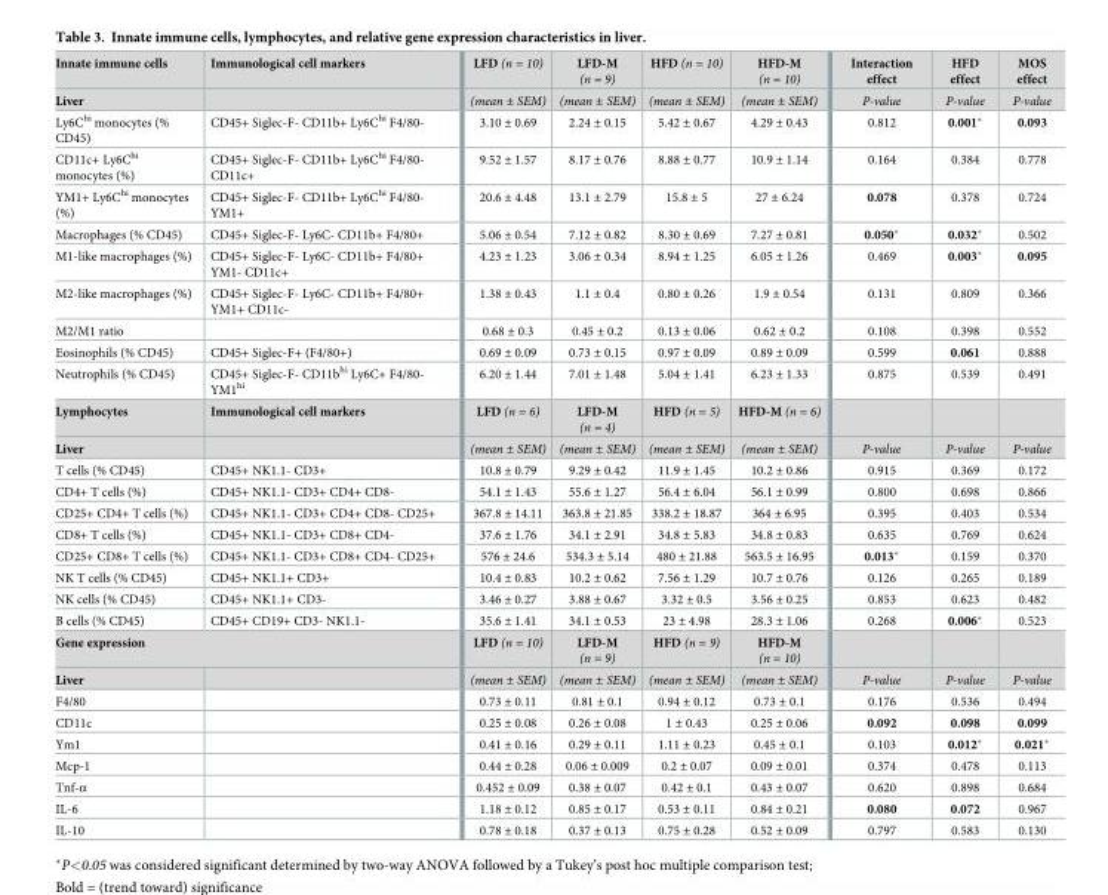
<table><tbody><tr><td>Innate immune cells</td><td>Immunological cell markers</td><td>LFD (n = 10)</td><td>LFD-M (n = 9)</td><td>HFD (n = 10)</td><td>HFD-M (n = 10)</td><td>Interaction effect</td><td>HFD effect</td><td>MOS effect</td></tr><tr><td>Liver</td><td></td><td>(mean ± SEM)</td><td>(mean ± SEM)</td><td>(mean ± SEM)</td><td>(mean ± SEM)</td><td>P-value</td><td>P-value</td><td>P-value</td></tr><tr><td>Ly6C<sup>hi</sup> monocytes (% CD45)</td><td>CD45+ Siglec-F- CD11b+ Ly6C<sup>hi</sup> F4/80-</td><td>3.10 ± 0.69</td><td>2.24 ± 0.15</td><td>5.42 ± 0.67</td><td>4.29 ± 0.43</td><td>0.812</td><td>0.001*</td><td>0.093</td></tr><tr><td>CD11c+ Ly6C<sup>hi</sup> monocytes (%)</td><td>CD45+ Siglec-F- CD11b+ Ly6C<sup>hi</sup> F4/80- CD11c+</td><td>9.52 ± 1.57</td><td>8.17 ± 0.76</td><td>8.88 ± 0.77</td><td>10.9 ± 1.14</td><td>0.164</td><td>0.384</td><td>0.778</td></tr><tr><td>YM1+ Ly6C<sup>hi</sup> monocytes (%)</td><td>CD45+ Siglec-F- CD11b+ Ly6C<sup>hi</sup> F4/80- YM1+</td><td>20.6 ± 4.48</td><td>13.1 ± 2.79</td><td>15.8 ± 5</td><td>27 ± 6.24</td><td>0.078</td><td>0.378</td><td>0.724</td></tr><tr><td>Macrophages (% CD45)</td><td>CD45+ Siglec-F- Ly6C- CD11b+ F4/80+</td><td>5.06 ± 0.54</td><td>7.12 ± 0.82</td><td>8.30 ± 0.69</td><td>7.27 ± 0.81</td><td>0.050*</td><td>0.032*</td><td>0.502</td></tr><tr><td>M1-like macrophages (%)</td><td>CD45+ Siglec-F- Ly6C- CD11b+ F4/80+ YM1- CD11c+</td><td>4.23 ± 1.23</td><td>3.06 ± 0.34</td><td>8.94 ± 1.25</td><td>6.05 ± 1.26</td><td>0.469</td><td>0.003*</td><td>0.095</td></tr><tr><td>M2-like macrophages (%)</td><td>CD45+ Siglec-F- Ly6C- CD11b+ F4/80+ YM1+ CD11c-</td><td>1.38 ± 0.43</td><td>1.1 ± 0.4</td><td>0.80 ± 0.26</td><td>1.9 ± 0.54</td><td>0.131</td><td>0.809</td><td>0.366</td></tr><tr><td>M2/M1 ratio</td><td></td><td>0.68 ± 0.3</td><td>0.45 ± 0.2</td><td>0.13 ± 0.06</td><td>0.62 ± 0.2</td><td>0.108</td><td>0.398</td><td>0.552</td></tr><tr><td>Eosinophils (% CD45)</td><td>CD45+ Siglec-F+ (F4/80+)</td><td>0.69 ± 0.09</td><td>0.73 ± 0.15</td><td>0.97 ± 0.09</td><td>0.89 ± 0.09</td><td>0.599</td><td>0.061</td><td>0.888</td></tr><tr><td>Neutrophils (% CD45)</td><td>CD45+ Siglec-F- CD11b<sup>hi</sup> Ly6C+ F4/80- YM1<sup>hi</sup></td><td>6.20 ± 1.44</td><td>7.01 ± 1.48</td><td>5.04 ± 1.41</td><td>6.23 ± 1.33</td><td>0.875</td><td>0.539</td><td>0.491</td></tr><tr><td>Lymphocytes</td><td>Immunological cell markers</td><td>LFD (n = 6)</td><td>LFD-M (n = 4)</td><td>HFD (n = 5)</td><td>HFD-M (n = 6)</td><td></td><td></td><td></td></tr><tr><td>Liver</td><td></td><td>(mean ± SEM)</td><td>(mean ± SEM)</td><td>(mean ± SEM)</td><td>(mean ± SEM)</td><td>P-value</td><td>P-value</td><td>P-value</td></tr><tr><td>T cells (% CD45)</td><td>CD45+ NK1.1- CD3+</td><td>10.8 ± 0.79</td><td>9.29 ± 0.42</td><td>11.9 ± 1.45</td><td>10.2 ± 0.86</td><td>0.915</td><td>0.369</td><td>0.172</td></tr><tr><td>CD4+ T cells (%)</td><td>CD45+ NK1.1- CD3+ CD4+ CD8-</td><td>54.1 ± 1.43</td><td>55.6 ± 1.27</td><td>56.4 ± 6.04</td><td>56.1 ± 0.99</td><td>0.800</td><td>0.698</td><td>0.866</td></tr><tr><td>CD25+ CD4+ T cells (%)</td><td>CD45+ NK1.1- CD3+ CD4+ CD8- CD25+</td><td>367.8 ± 14.11</td><td>363.8 ± 21.85</td><td>338.2 ± 18.87</td><td>364 ± 6.95</td><td>0.395</td><td>0.403</td><td>0.534</td></tr><tr><td>CD8+ T cells (%)</td><td>CD45+ NK1.1- CD3+ CD8+ CD4-</td><td>37.6 ± 1.76</td><td>34.1 ± 2.91</td><td>34.8 ± 5.83</td><td>34.8 ± 0.83</td><td>0.635</td><td>0.769</td><td>0.624</td></tr><tr><td>CD25+ CD8+ T cells (%)</td><td>CD45+ NK1.1- CD3+ CD8+ CD4- CD25+</td><td>576 ± 24.6</td><td>534.3 ± 5.14</td><td>480 ± 21.88</td><td>563.5 ± 16.95</td><td>0.013*</td><td>0.159</td><td>0.370</td></tr><tr><td>NK T cells (% CD45)</td><td>CD45+ NK1.1+ CD3+</td><td>10.4 ± 0.83</td><td>10.2 ± 0.62</td><td>7.56 ± 1.29</td><td>10.7 ± 0.76</td><td>0.126</td><td>0.265</td><td>0.189</td></tr><tr><td>NK cells (% CD45)</td><td>CD45+ NK1.1+ CD3-</td><td>3.46 ± 0.27</td><td>3.88 ± 0.67</td><td>3.32 ± 0.5</td><td>3.56 ± 0.25</td><td>0.853</td><td>0.623</td><td>0.482</td></tr><tr><td>B cells (% CD45)</td><td>CD45+ CD19+ CD3- NK1.1-</td><td>35.6 ± 1.41</td><td>34.1 ± 0.53</td><td>23 ± 4.98</td><td>28.3 ± 1.06</td><td>0.268</td><td>0.006*</td><td>0.523</td></tr><tr><td colspan="2">Gene expression</td><td>LFD (n = 10)</td><td>LFD-M (n = 9)</td><td>HFD (n = 9)</td><td>HFD-M (n = 10)</td><td></td><td></td><td></td></tr><tr><td>Liver</td><td></td><td>(mean ± SEM)</td><td>(mean ± SEM)</td><td>(mean ± SEM)</td><td>(mean ± SEM)</td><td>P-value</td><td>P-value</td><td>P-value</td></tr><tr><td>F4/80</td><td></td><td>0.73 ± 0.11</td><td>0.81 ± 0.1</td><td>0.94 ± 0.12</td><td>0.73 ± 0.1</td><td>0.176</td><td>0.536</td><td>0.494</td></tr><tr><td>CD11c</td><td></td><td>0.25 ± 0.08</td><td>0.26 ± 0.08</td><td>1 ± 0.43</td><td>0.25 ± 0.06</td><td>0.092</td><td>0.098</td><td>0.099</td></tr><tr><td>Ym1</td><td></td><td>0.41 ± 0.16</td><td>0.29 ± 0.11</td><td>1.11 ± 0.23</td><td>0.45 ± 0.1</td><td>0.103</td><td>0.012*</td><td>0.021*</td></tr><tr><td>Mcp-1</td><td></td><td>0.44 ± 0.28</td><td>0.06 ± 0.009</td><td>0.2 ± 0.07</td><td>0.09 ± 0.01</td><td>0.374</td><td>0.478</td><td>0.113</td></tr><tr><td>Tnf-α</td><td></td><td>0.452 ± 0.09</td><td>0.38 ± 0.07</td><td>0.42 ± 0.1</td><td>0.43 ± 0.07</td><td>0.620</td><td>0.898</td><td>0.684</td></tr><tr><td>IL-6</td><td></td><td>1.18 ± 0.12</td><td>0.85 ± 0.17</td><td>0.53 ± 0.11</td><td>0.84 ± 0.21</td><td>0.080</td><td>0.072</td><td>0.967</td></tr><tr><td>IL-10</td><td></td><td>0.78 ± 0.18</td><td>0.37 ± 0.13</td><td>0.75 ± 0.28</td><td>0.52 ± 0.09</td><td>0.797</td><td>0.583</td><td>0.130</td></tr></tbody></table>